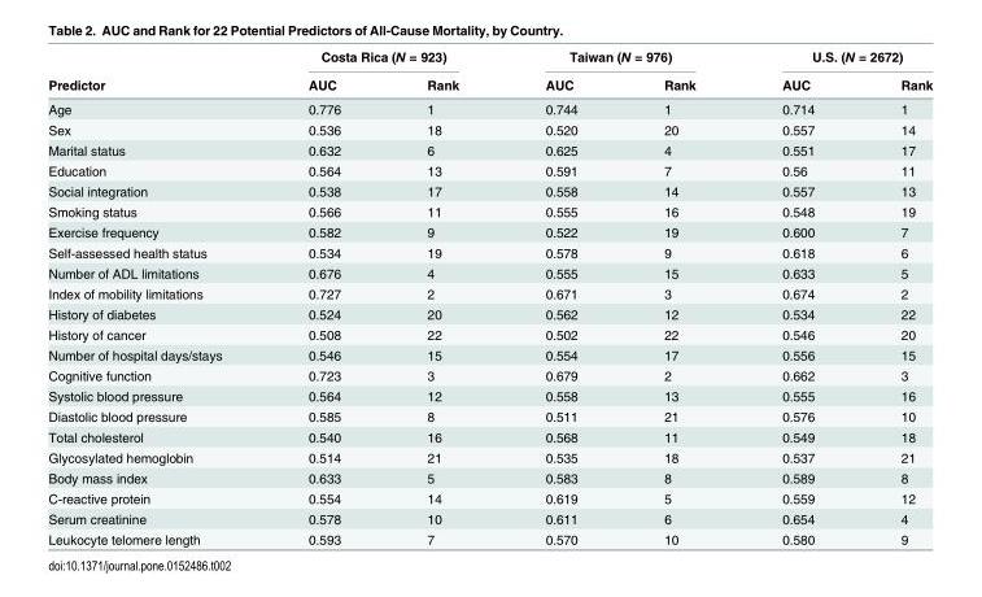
<table><thead><tr><td rowspan="2">Predictor</td><td colspan="2">Costa Rica (N = 923)</td><td colspan="2">Taiwan (N = 976)</td><td colspan="2">U.S. (N = 2672)</td></tr><tr><td>AUC</td><td>Rank</td><td>AUC</td><td>Rank</td><td>AUC</td><td>Rank</td></tr></thead><tbody><tr><td>Age</td><td>0.776</td><td>1</td><td>0.744</td><td>1</td><td>0.714</td><td>1</td></tr><tr><td>Sex</td><td>0.536</td><td>18</td><td>0.520</td><td>20</td><td>0.557</td><td>14</td></tr><tr><td>Marital status</td><td>0.632</td><td>6</td><td>0.625</td><td>4</td><td>0.551</td><td>17</td></tr><tr><td>Education</td><td>0.564</td><td>13</td><td>0.591</td><td>7</td><td>0.56</td><td>11</td></tr><tr><td>Social integration</td><td>0.538</td><td>17</td><td>0.558</td><td>14</td><td>0.557</td><td>13</td></tr><tr><td>Smoking status</td><td>0.566</td><td>11</td><td>0.555</td><td>16</td><td>0.548</td><td>19</td></tr><tr><td>Exercise frequency</td><td>0.582</td><td>9</td><td>0.522</td><td>19</td><td>0.600</td><td>7</td></tr><tr><td>Self-assessed health status</td><td>0.534</td><td>19</td><td>0.578</td><td>9</td><td>0.618</td><td>6</td></tr><tr><td>Number of ADL limitations</td><td>0.676</td><td>4</td><td>0.555</td><td>15</td><td>0.633</td><td>5</td></tr><tr><td>Index of mobility limitations</td><td>0.727</td><td>2</td><td>0.671</td><td>3</td><td>0.674</td><td>2</td></tr><tr><td>History of diabetes</td><td>0.524</td><td>20</td><td>0.562</td><td>12</td><td>0.534</td><td>22</td></tr><tr><td>History of cancer</td><td>0.508</td><td>22</td><td>0.502</td><td>22</td><td>0.546</td><td>20</td></tr><tr><td>Number of hospital days/stays</td><td>0.546</td><td>15</td><td>0.554</td><td>17</td><td>0.556</td><td>15</td></tr><tr><td>Cognitive function</td><td>0.723</td><td>3</td><td>0.679</td><td>2</td><td>0.662</td><td>3</td></tr><tr><td>Systolic blood pressure</td><td>0.564</td><td>12</td><td>0.558</td><td>13</td><td>0.555</td><td>16</td></tr><tr><td>Diastolic blood pressure</td><td>0.585</td><td>8</td><td>0.511</td><td>21</td><td>0.576</td><td>10</td></tr><tr><td>Total cholesterol</td><td>0.540</td><td>16</td><td>0.568</td><td>11</td><td>0.549</td><td>18</td></tr><tr><td>Glycosylated hemoglobin</td><td>0.514</td><td>21</td><td>0.535</td><td>18</td><td>0.537</td><td>21</td></tr><tr><td>Body mass index</td><td>0.633</td><td>5</td><td>0.583</td><td>8</td><td>0.589</td><td>8</td></tr><tr><td>C-reactive protein</td><td>0.554</td><td>14</td><td>0.619</td><td>5</td><td>0.559</td><td>12</td></tr><tr><td>Serum creatinine</td><td>0.578</td><td>10</td><td>0.611</td><td>6</td><td>0.654</td><td>4</td></tr><tr><td>Leukocyte telomere length</td><td>0.593</td><td>7</td><td>0.570</td><td>10</td><td>0.580</td><td>9</td></tr></tbody></table>